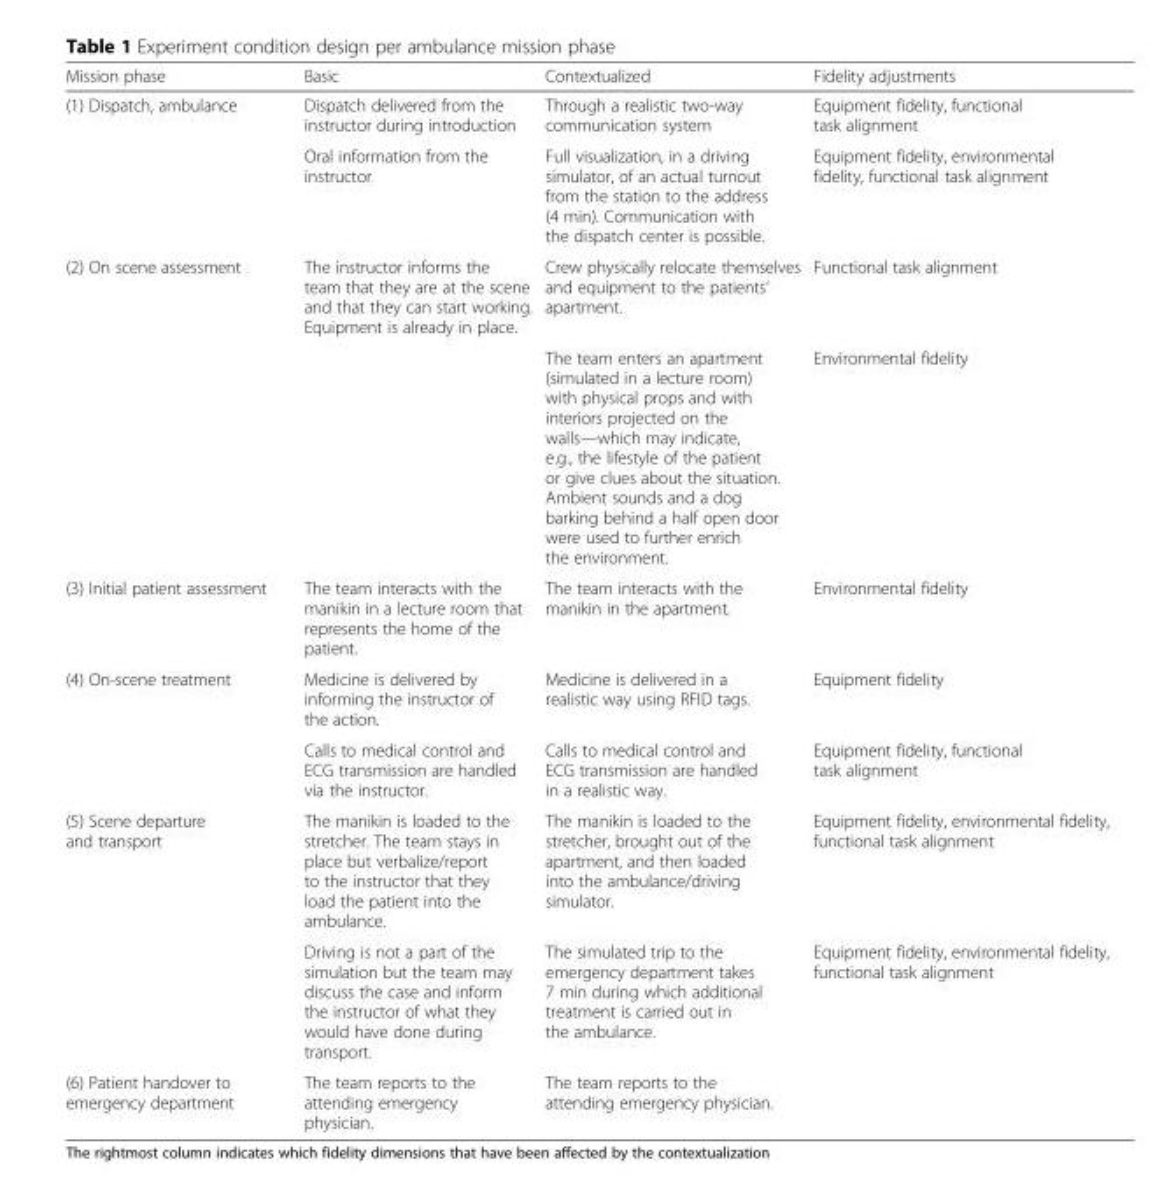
<table><thead><tr><td>Mission phase</td><td>Basic</td><td>Contextualized</td><td>Fidelity adjustments</td></tr></thead><tbody><tr><td rowspan="2">(1) Dispatch, ambulance</td><td>Dispatch delivered from the instructor during introduction</td><td>Through a realistic two-way communication system</td><td>Equipment fidelity, functional task alignment</td></tr><tr><td>Oral information from the instructor</td><td>Full visualization, in a driving simulator, of an actual turnout from the station to the address (4 min). Communication with the dispatch center is possible.</td><td>Equipment fidelity, environmental fidelity, functional task alignment</td></tr><tr><td rowspan="2">(2) On scene assessment</td><td>The instructor informs the team that they are at the scene and that they can start working. Equipment is already in place.</td><td>Crew physically relocate themselves and equipment to the patients’ apartment.</td><td>Functional task alignment</td></tr><tr><td></td><td>The team enters an apartment (simulated in a lecture room) with physical props and with interiors projected on the walls—which may indicate, e.g., the lifestyle of the patient or give clues about the situation. Ambient sounds and a dog barking behind a half open door were used to further enrich the environment.</td><td>Environmental fidelity</td></tr><tr><td>(3) Initial patient assessment</td><td>The team interacts with the manikin in a lecture room that represents the home of the patient.</td><td>The team interacts with the manikin in the apartment.</td><td>Environmental fidelity</td></tr><tr><td rowspan="2">(4) On-scene treatment</td><td>Medicine is delivered by informing the instructor of the action.</td><td>Medicine is delivered in a realistic way using RFID tags.</td><td>Equipment fidelity</td></tr><tr><td>Calls to medical control and ECG transmission are handled via the instructor.</td><td>Calls to medical control and ECG transmission are handled in a realistic way.</td><td>Equipment fidelity, functional task alignment</td></tr><tr><td rowspan="2">(5) Scene departure and transport</td><td>The manikin is loaded to the stretcher. The team stays in place but verbalize/report to the instructor that they load the patient into the ambulance.</td><td>The manikin is loaded to the stretcher, brought out of the apartment, and then loaded into the ambulance/driving simulator.</td><td>Equipment fidelity, environmental fidelity, functional task alignment</td></tr><tr><td>Driving is not a part of the simulation but the team may discuss the case and inform the instructor of what they would have done during transport.</td><td>The simulated trip to the emergency department takes 7 min during which additional treatment is carried out in the ambulance.</td><td>Equipment fidelity, environmental fidelity, functional task alignment</td></tr><tr><td>(6) Patient handover to emergency department</td><td>The team reports to the attending emergency physician.</td><td>The team reports to the attending emergency physician.</td><td></td></tr></tbody></table>